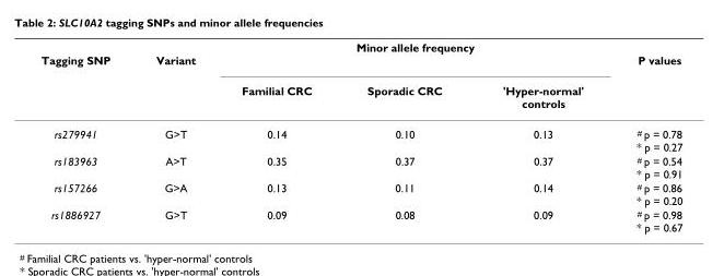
<table><thead><tr><td rowspan="2">Tagging SNP</td><td rowspan="2">Variant</td><td colspan="3">Minor allele frequency</td><td rowspan="2">P values</td></tr><tr><td>Familial CRC</td><td>Sporadic CRC</td><td>&#x27;Hyper-normal&#x27; controls</td></tr></thead><tbody><tr><td>rs279941</td><td>G&gt;T</td><td>0.14</td><td>0.10</td><td>0.13</td><td><sup>#</sup> p = 0.78 * p = 0.27</td></tr><tr><td>rs183963</td><td>A&gt;T</td><td>0.35</td><td>0.37</td><td>0.37</td><td><sup>#</sup> p = 0.54 * p = 0.91</td></tr><tr><td>rs157266</td><td>G&gt;A</td><td>0.13</td><td>0.11</td><td>0.14</td><td><sup>#</sup> p = 0.86 * p = 0.20</td></tr><tr><td>rs1886927</td><td>G&gt;T</td><td>0.09</td><td>0.08</td><td>0.09</td><td><sup>#</sup> p = 0.98 * p = 0.67</td></tr></tbody></table>